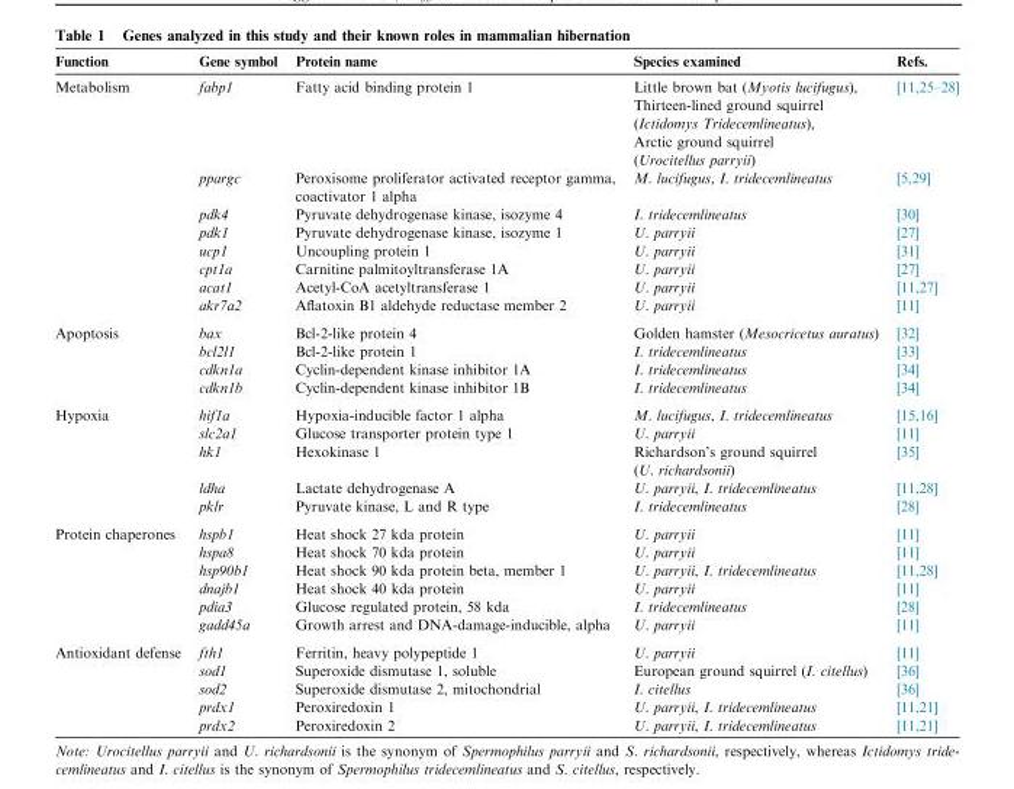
<table><thead><tr><td>Function</td><td>Gene symbol</td><td>Protein name</td><td>Species examined</td><td>Refs.</td></tr></thead><tbody><tr><td rowspan="8">Metabolism</td><td>fabp1</td><td>Fatty acid binding protein 1</td><td>Little brown bat (Myotis lucifugus), Thirteen-lined ground squirrel (Ictidomys Tridecemlineatus), Arctic ground squirrel (Urocitellus parryii)</td><td>[11,25–28]</td></tr><tr><td>ppargc</td><td>Peroxisome proliferator activated receptor gamma, coactivator 1 alpha</td><td>M. lucifugus, I. tridecemlineatus</td><td>[5,29]</td></tr><tr><td>pdk4</td><td>Pyruvate dehydrogenase kinase, isozyme 4</td><td>I. tridecemlineatus</td><td>[30]</td></tr><tr><td>pdk1</td><td>Pyruvate dehydrogenase kinase, isozyme 1</td><td>U. parryii</td><td>[27]</td></tr><tr><td>ucp1</td><td>Uncoupling protein 1</td><td>U. parryii</td><td>[31]</td></tr><tr><td>cpt1a</td><td>Carnitine palmitoyltransferase 1A</td><td>U. parryii</td><td>[27]</td></tr><tr><td>acat1</td><td>Acetyl-CoA acetyltransferase 1</td><td>U. parryii</td><td>[11,27]</td></tr><tr><td>akr7a2</td><td>Aflatoxin B1 aldehyde reductase member 2</td><td>U. parryii</td><td>[11]</td></tr><tr><td rowspan="4">Apoptosis</td><td>bax</td><td>Bcl-2-like protein 4</td><td>Golden hamster (Mesocricetus auratus)</td><td>[32]</td></tr><tr><td>bcl2l1</td><td>Bcl-2-like protein 1</td><td>I. tridecemlineatus</td><td>[33]</td></tr><tr><td>cdkn1a</td><td>Cyclin-dependent kinase inhibitor 1A</td><td>I. tridecemlineatus</td><td>[34]</td></tr><tr><td>cdkn1b</td><td>Cyclin-dependent kinase inhibitor 1B</td><td>I. tridecemlineatus</td><td>[34]</td></tr><tr><td rowspan="5">Hypoxia</td><td>hif1a</td><td>Hypoxia-inducible factor 1 alpha</td><td>M. lucifugus, I. tridecemlineatus</td><td>[15,16]</td></tr><tr><td>slc2a1</td><td>Glucose transporter protein type 1</td><td>U. parryii</td><td>[11]</td></tr><tr><td>hk1</td><td>Hexokinase 1</td><td>Richardson’s ground squirrel (U. richardsonii)</td><td>[35]</td></tr><tr><td>ldha</td><td>Lactate dehydrogenase A</td><td>U. parryii, I. tridecemlineatus</td><td>[11,28]</td></tr><tr><td>pklr</td><td>Pyruvate kinase, L and R type</td><td>I. tridecemlineatus</td><td>[28]</td></tr><tr><td rowspan="6">Protein chaperones</td><td>hspb1</td><td>Heat shock 27 kda protein</td><td>U. parryii</td><td>[11]</td></tr><tr><td>hspa8</td><td>Heat shock 70 kda protein</td><td>U. parryii</td><td>[11]</td></tr><tr><td>hsp90b1</td><td>Heat shock 90 kda protein beta, member 1</td><td>U. parryii, I. tridecemlineatus</td><td>[11,28]</td></tr><tr><td>dnajb1</td><td>Heat shock 40 kda protein</td><td>U. parryii</td><td>[11]</td></tr><tr><td>pdia3</td><td>Glucose regulated protein, 58 kda</td><td>I. tridecemlineatus</td><td>[28]</td></tr><tr><td>gadd45a</td><td>Growth arrest and DNA-damage-inducible, alpha</td><td>U. parryii</td><td>[11]</td></tr><tr><td rowspan="5">Antioxidant defense</td><td>fth1</td><td>Ferritin, heavy polypeptide 1</td><td>U. parryii</td><td>[11]</td></tr><tr><td>sod1</td><td>Superoxide dismutase 1, soluble</td><td>European ground squirrel (I. citellus)</td><td>[36]</td></tr><tr><td>sod2</td><td>Superoxide dismutase 2, mitochondrial</td><td>I. citellus</td><td>[36]</td></tr><tr><td>prdx1</td><td>Peroxiredoxin 1</td><td>U. parryii, I. tridecemlineatus</td><td>[11,21]</td></tr><tr><td>prdx2</td><td>Peroxiredoxin 2</td><td>U. parryii, I. tridecemlineatus</td><td>[11,21]</td></tr></tbody></table>